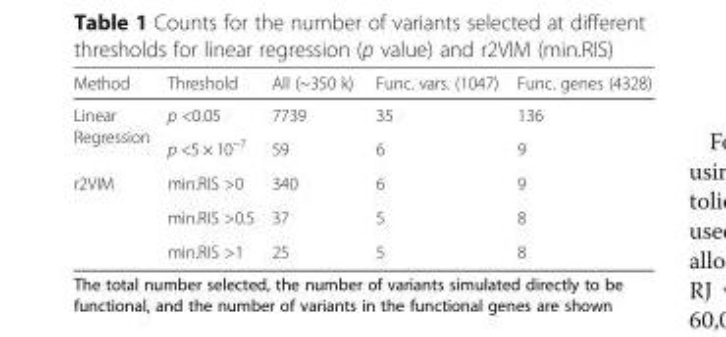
<table><thead><tr><td>Method</td><td>Threshold</td><td>All (~350 k)</td><td>Func. vars. (1047)</td><td>Func. genes (4328)</td></tr></thead><tbody><tr><td rowspan="2">Linear Regression</td><td>p &lt;0.05</td><td>7739</td><td>35</td><td>136</td></tr><tr><td>p &lt;5 × 10<sup>−7</sup></td><td>59</td><td>6</td><td>9</td></tr><tr><td rowspan="3">r2VIM</td><td>min.RIS &gt;0</td><td>340</td><td>6</td><td>9</td></tr><tr><td>min.RIS &gt;0.5</td><td>37</td><td>5</td><td>8</td></tr><tr><td>min.RIS &gt;1</td><td>25</td><td>5</td><td>8</td></tr></tbody></table>